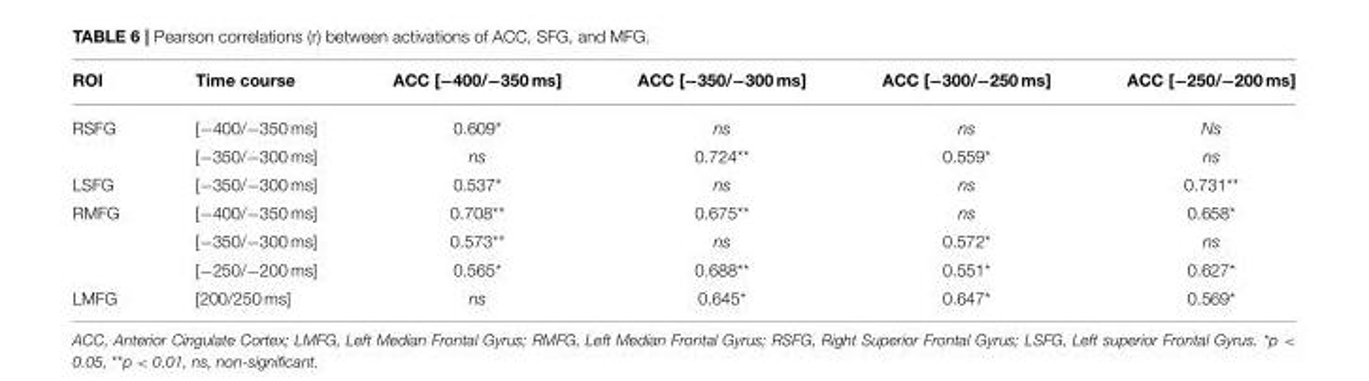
<table><thead><tr><td>ROI</td><td>Time course</td><td>ACC [−400/−350 ms]</td><td>ACC [−350/−300 ms]</td><td>ACC [−300/−250 ms]</td><td>ACC [−250/−200 ms]</td></tr></thead><tbody><tr><td rowspan="2">RSFG</td><td>[−400/−350 ms]</td><td>0.609*</td><td>ns</td><td>ns</td><td>Ns</td></tr><tr><td>[−350/−300 ms]</td><td>ns</td><td>0.724**</td><td>0.559*</td><td>ns</td></tr><tr><td>LSFG</td><td>[−350/−300 ms]</td><td>0.537*</td><td>ns</td><td>ns</td><td>0.731**</td></tr><tr><td rowspan="3">RMFG</td><td>[−400/−350 ms]</td><td>0.708**</td><td>0.675**</td><td>ns</td><td>0.658*</td></tr><tr><td>[−350/−300 ms]</td><td>0.573**</td><td>ns</td><td>0.572*</td><td>ns</td></tr><tr><td>[−250/−200 ms]</td><td>0.565*</td><td>0.688**</td><td>0.551*</td><td>0.627*</td></tr><tr><td>LMFG</td><td>[200/250 ms]</td><td>ns</td><td>0.645*</td><td>0.647*</td><td>0.569*</td></tr></tbody></table>